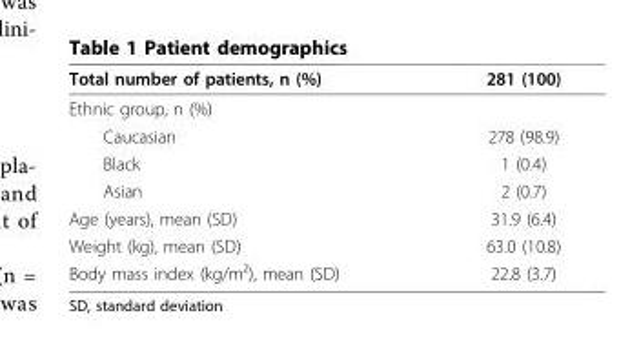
<table><thead><tr><td>Total number of patients, n (%)</td><td>281 (100)</td></tr></thead><tbody><tr><td colspan="2">Ethnic group, n (%)</td></tr><tr><td>Caucasian</td><td>278 (98.9)</td></tr><tr><td>Black</td><td>1 (0.4)</td></tr><tr><td>Asian</td><td>2 (0.7)</td></tr><tr><td>Age (years), mean (SD)</td><td>31.9 (6.4)</td></tr><tr><td>Weight (kg), mean (SD)</td><td>63.0 (10.8)</td></tr><tr><td>Body mass index (kg/m²), mean (SD)</td><td>22.8 (3.7)</td></tr></tbody></table>